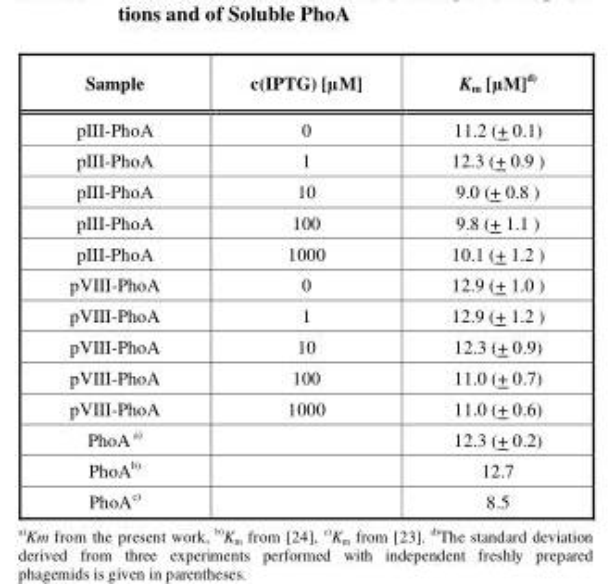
<table><thead><tr><td>Sample</td><td>c(IPTG) [µM]</td><td>K<sub>m</sub> [µM]<sup>d)</sup></td></tr></thead><tbody><tr><td>pIII-PhoA</td><td>0</td><td>11.2 (+ 0.1)</td></tr><tr><td>pIII-PhoA</td><td>1</td><td>12.3 (+ 0.9 )</td></tr><tr><td>pIII-PhoA</td><td>10</td><td>9.0 (+ 0.8 )</td></tr><tr><td>pIII-PhoA</td><td>100</td><td>9.8 (+ 1.1 )</td></tr><tr><td>pIII-PhoA</td><td>1000</td><td>10.1 (+ 1.2 )</td></tr><tr><td>pVIII-PhoA</td><td>0</td><td>12.9 (+ 1.0 )</td></tr><tr><td>pVIII-PhoA</td><td>1</td><td>12.9 (+ 1.2 )</td></tr><tr><td>pVIII-PhoA</td><td>10</td><td>12.3 (+ 0.9)</td></tr><tr><td>pVIII-PhoA</td><td>100</td><td>11.0 (+ 0.7)</td></tr><tr><td>pVIII-PhoA</td><td>1000</td><td>11.0 (+ 0.6)</td></tr><tr><td>PhoA <sup>a)</sup></td><td></td><td>12.3 (+ 0.2)</td></tr><tr><td>PhoA<sup>b)</sup></td><td></td><td>12.7</td></tr><tr><td>PhoA<sup>c)</sup></td><td></td><td>8.5</td></tr></tbody></table>